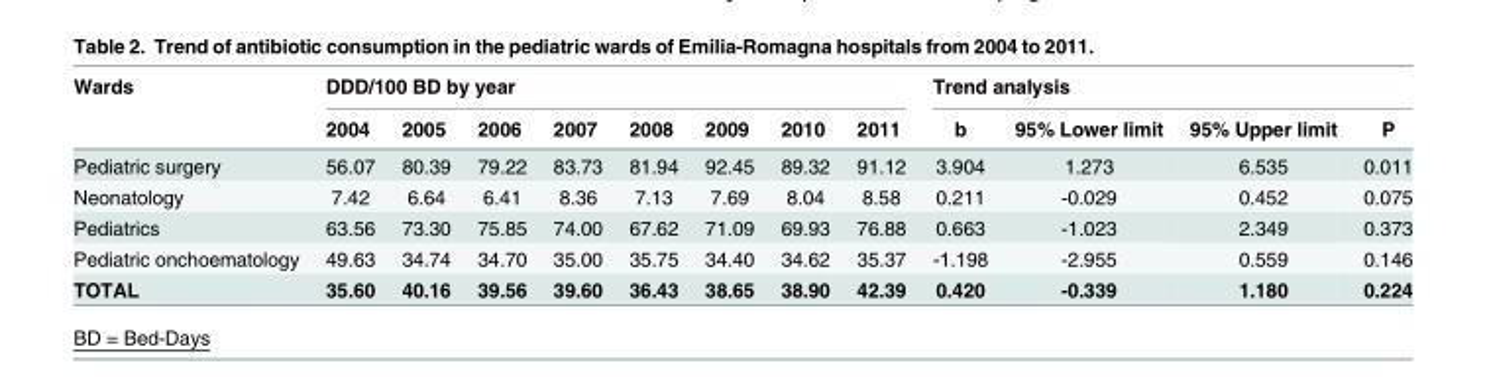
<table><thead><tr><td rowspan="2">Wards</td><td colspan="8">DDD/100 BD by year</td><td colspan="4">Trend analysis</td></tr><tr><td>2004</td><td>2005</td><td>2006</td><td>2007</td><td>2008</td><td>2009</td><td>2010</td><td>2011</td><td>b</td><td>95% Lower limit</td><td>95% Upper limit</td><td>P</td></tr></thead><tbody><tr><td>Pediatric surgery</td><td>56.07</td><td>80.39</td><td>79.22</td><td>83.73</td><td>81.94</td><td>92.45</td><td>89.32</td><td>91.12</td><td>3.904</td><td>1.273</td><td>6.535</td><td>0.011</td></tr><tr><td>Neonatology</td><td>7.42</td><td>6.64</td><td>6.41</td><td>8.36</td><td>7.13</td><td>7.69</td><td>8.04</td><td>8.58</td><td>0.211</td><td>-0.029</td><td>0.452</td><td>0.075</td></tr><tr><td>Pediatrics</td><td>63.56</td><td>73.30</td><td>75.85</td><td>74.00</td><td>67.62</td><td>71.09</td><td>69.93</td><td>76.88</td><td>0.663</td><td>-1.023</td><td>2.349</td><td>0.373</td></tr><tr><td>Pediatric onchoematology</td><td>49.63</td><td>34.74</td><td>34.70</td><td>35.00</td><td>35.75</td><td>34.40</td><td>34.62</td><td>35.37</td><td>-1.198</td><td>-2.955</td><td>0.559</td><td>0.146</td></tr><tr><td>TOTAL</td><td>35.60</td><td>40.16</td><td>39.56</td><td>39.60</td><td>36.43</td><td>38.65</td><td>38.90</td><td>42.39</td><td>0.420</td><td>-0.339</td><td>1.180</td><td>0.224</td></tr></tbody></table>